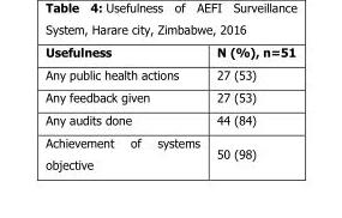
<table><thead><tr><td>Usefulness</td><td>N (%), n=51</td></tr></thead><tbody><tr><td>Any public health actions</td><td>27 (53)</td></tr><tr><td>Any feedback given</td><td>27 (53)</td></tr><tr><td>Any audits done</td><td>44 (84)</td></tr><tr><td>Achievement of systems objective</td><td>50 (98)</td></tr></tbody></table>